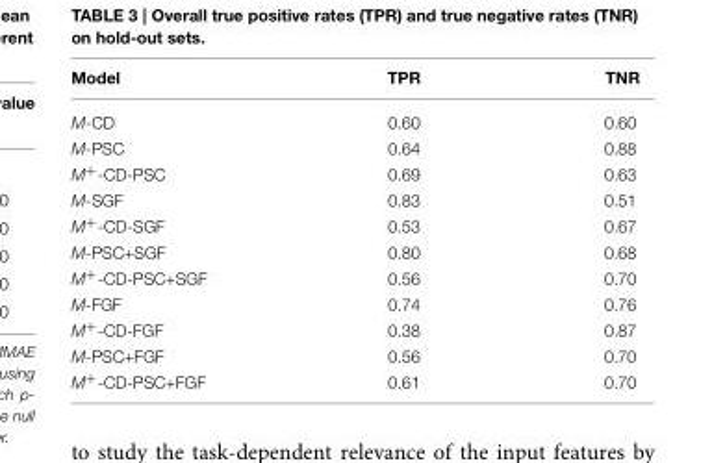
<table><thead><tr><td>Model</td><td>TPR</td><td>TNR</td></tr></thead><tbody><tr><td>M-CD</td><td>0.60</td><td>0.60</td></tr><tr><td>M-PSC</td><td>0.64</td><td>0.88</td></tr><tr><td>M<sup>+</sup>-CD-PSC</td><td>0.69</td><td>0.63</td></tr><tr><td>M-SGF</td><td>0.83</td><td>0.51</td></tr><tr><td>M<sup>+</sup>-CD-SGF</td><td>0.53</td><td>0.67</td></tr><tr><td>M-PSC+SGF</td><td>0.80</td><td>0.68</td></tr><tr><td>M<sup>+</sup>-CD-PSC+SGF</td><td>0.56</td><td>0.70</td></tr><tr><td>M-FGF</td><td>0.74</td><td>0.76</td></tr><tr><td>M<sup>+</sup>-CD-FGF</td><td>0.38</td><td>0.87</td></tr><tr><td>M-PSC+FGF</td><td>0.56</td><td>0.70</td></tr><tr><td>M<sup>+</sup>-CD-PSC+FGF</td><td>0.61</td><td>0.70</td></tr></tbody></table>